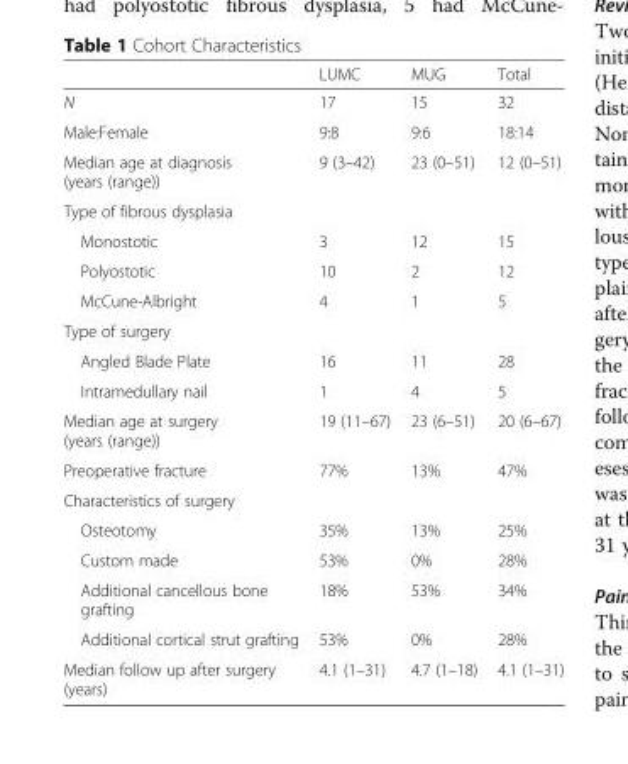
<table><thead><tr><td></td><td>LUMC</td><td>MUG</td><td>Total</td></tr></thead><tbody><tr><td>N</td><td>17</td><td>15</td><td>32</td></tr><tr><td>Male:Female</td><td>9:8</td><td>9:6</td><td>18:14</td></tr><tr><td>Median age at diagnosis (years (range))</td><td>9 (3–42)</td><td>23 (0–51)</td><td>12 (0–51)</td></tr><tr><td colspan="4">Type of fibrous dysplasia</td></tr><tr><td>Monostotic</td><td>3</td><td>12</td><td>15</td></tr><tr><td>Polyostotic</td><td>10</td><td>2</td><td>12</td></tr><tr><td>McCune-Albright</td><td>4</td><td>1</td><td>5</td></tr><tr><td colspan="4">Type of surgery</td></tr><tr><td>Angled Blade Plate</td><td>16</td><td>11</td><td>28</td></tr><tr><td>Intramedullary nail</td><td>1</td><td>4</td><td>5</td></tr><tr><td>Median age at surgery (years (range))</td><td>19 (11–67)</td><td>23 (6–51)</td><td>20 (6–67)</td></tr><tr><td>Preoperative fracture</td><td>77%</td><td>13%</td><td>47%</td></tr><tr><td colspan="4">Characteristics of surgery</td></tr><tr><td>Osteotomy</td><td>35%</td><td>13%</td><td>25%</td></tr><tr><td>Custom made</td><td>53%</td><td>0%</td><td>28%</td></tr><tr><td>Additional cancellous bone grafting</td><td>18%</td><td>53%</td><td>34%</td></tr><tr><td>Additional cortical strut grafting</td><td>53%</td><td>0%</td><td>28%</td></tr><tr><td>Median follow up after surgery (years)</td><td>4.1 (1–31)</td><td>4.7 (1–18)</td><td>4.1 (1–31)</td></tr></tbody></table>